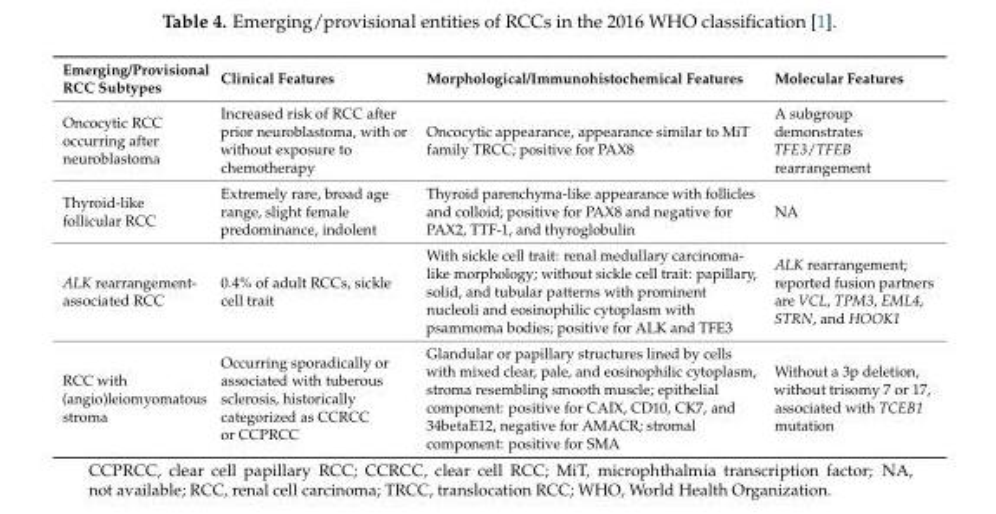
<table><thead><tr><td>Emerging/Provisional RCC Subtypes</td><td>Clinical Features</td><td>Morphological/Immunohistochemical Features</td><td>Molecular Features</td></tr></thead><tbody><tr><td>Oncocytic RCC occurring after neuroblastoma</td><td>Increased risk of RCC after prior neuroblastoma, with or without exposure to chemotherapy</td><td>Oncocytic appearance, appearance similar to MiT family TRCC; positive for PAX8</td><td>A subgroup demonstrates TFE3/TFEB rearrangement</td></tr><tr><td>Thyroid-like follicular RCC</td><td>Extremely rare, broad age range, slight female predominance, indolent</td><td>Thyroid parenchyma-like appearance with follicles and colloid; positive for PAX8 and negative for PAX2, TTF-1, and thyroglobulin</td><td>NA</td></tr><tr><td>ALK rearrangement- associated RCC</td><td>0.4% of adult RCCs, sickle cell trait</td><td>With sickle cell trait: renal medullary carcinoma- like morphology; without sickle cell trait: papillary, solid, and tubular patterns with prominent nucleoli and eosinophilic cytoplasm with psammoma bodies; positive for ALK and TFE3</td><td>ALK rearrangement; reported fusion partners are VCL, TPM3, EML4, STRN, and HOOK1</td></tr><tr><td>RCC with (angio)leiomyomatous stroma</td><td>Occurring sporadically or associated with tuberous sclerosis, historically categorized as CCRCC or CCPRCC</td><td>Glandular or papillary structures lined by cells with mixed clear, pale, and eosinophilic cytoplasm, stroma resembling smooth muscle; epithelial component: positive for CAIX, CD10, CK7, and 34betaE12, negative for AMACR; stromal component: positive for SMA</td><td>Without a 3p deletion, without trisomy 7 or 17, associated with TCEB1 mutation</td></tr></tbody></table>